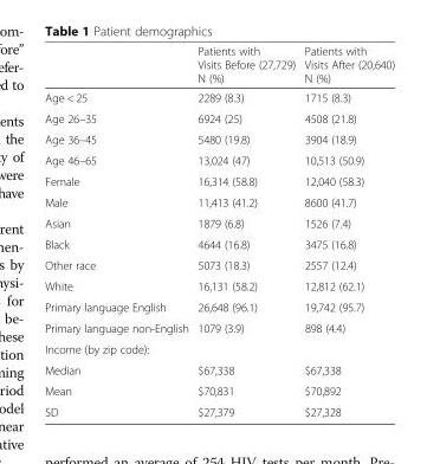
<table><thead><tr><td></td><td>Patients with Visits Before (27,729) N (%)</td><td>Patients with Visits After (20,640) N (%)</td></tr></thead><tbody><tr><td>Age &lt; 25</td><td>2289 (8.3)</td><td>1715 (8.3)</td></tr><tr><td>Age 26–35</td><td>6924 (25)</td><td>4508 (21.8)</td></tr><tr><td>Age 36–45</td><td>5480 (19.8)</td><td>3904 (18.9)</td></tr><tr><td>Age 46–65</td><td>13,024 (47)</td><td>10,513 (50.9)</td></tr><tr><td>Female</td><td>16,314 (58.8)</td><td>12,040 (58.3)</td></tr><tr><td>Male</td><td>11,413 (41.2)</td><td>8600 (41.7)</td></tr><tr><td>Asian</td><td>1879 (6.8)</td><td>1526 (7.4)</td></tr><tr><td>Black</td><td>4644 (16.8)</td><td>3475 (16.8)</td></tr><tr><td>Other race</td><td>5073 (18.3)</td><td>2557 (12.4)</td></tr><tr><td>White</td><td>16,131 (58.2)</td><td>12,812 (62.1)</td></tr><tr><td>Primary language English</td><td>26,648 (96.1)</td><td>19,742 (95.7)</td></tr><tr><td>Primary language non-English</td><td>1079 (3.9)</td><td>898 (4.4)</td></tr><tr><td colspan="3">Income (by zip code):</td></tr><tr><td>Median</td><td>$67,338</td><td>$67,338</td></tr><tr><td>Mean</td><td>$70,831</td><td>$70,892</td></tr><tr><td>SD</td><td>$27,379</td><td>$27,328</td></tr></tbody></table>